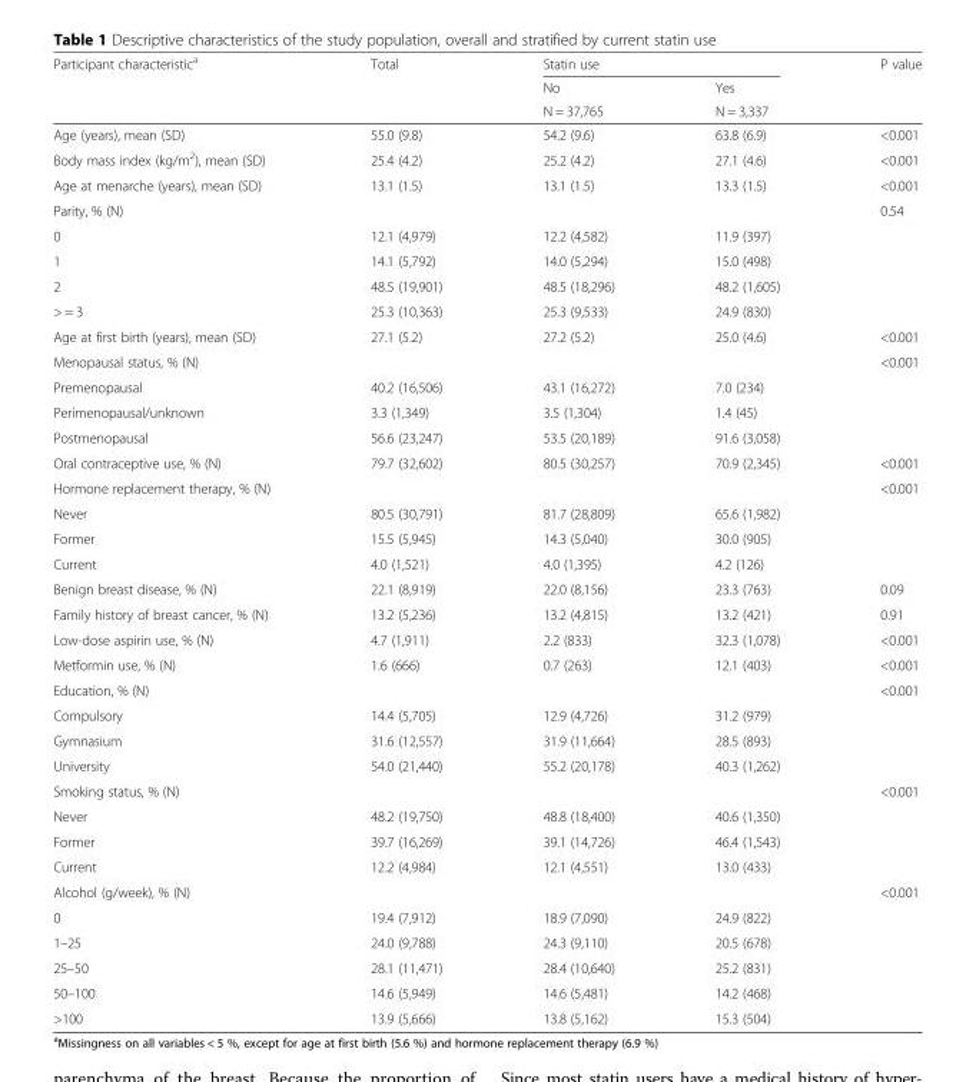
<table><thead><tr><td rowspan="3">Participant characteristic<sup>a</sup></td><td rowspan="3">Total</td><td colspan="2">Statin use</td><td rowspan="3">P value</td></tr><tr><td rowspan="2">No N = 37,765</td><td rowspan="2">Yes N = 3,337</td></tr><tr></tr></thead><tbody><tr><td>Age (years), mean (SD)</td><td>55.0 (9.8)</td><td>54.2 (9.6)</td><td>63.8 (6.9)</td><td>&lt;0.001</td></tr><tr><td>Body mass index (kg/m<sup>2</sup>), mean (SD)</td><td>25.4 (4.2)</td><td>25.2 (4.2)</td><td>27.1 (4.6)</td><td>&lt;0.001</td></tr><tr><td>Age at menarche (years), mean (SD)</td><td>13.1 (1.5)</td><td>13.1 (1.5)</td><td>13.3 (1.5)</td><td>&lt;0.001</td></tr><tr><td colspan="4">Parity, % (N)</td><td rowspan="5">0.54</td></tr><tr><td>0</td><td>12.1 (4,979)</td><td>12.2 (4,582)</td><td>11.9 (397)</td></tr><tr><td>1</td><td>14.1 (5,792)</td><td>14.0 (5,294)</td><td>15.0 (498)</td></tr><tr><td>2</td><td>48.5 (19,901)</td><td>48.5 (18,296)</td><td>48.2 (1,605)</td></tr><tr><td>&gt; = 3</td><td>25.3 (10,363)</td><td>25.3 (9,533)</td><td>24.9 (830)</td></tr><tr><td>Age at first birth (years), mean (SD)</td><td>27.1 (5.2)</td><td>27.2 (5.2)</td><td>25.0 (4.6)</td><td>&lt;0.001</td></tr><tr><td colspan="4">Menopausal status, % (N)</td><td rowspan="4">&lt;0.001</td></tr><tr><td>Premenopausal</td><td>40.2 (16,506)</td><td>43.1 (16,272)</td><td>7.0 (234)</td></tr><tr><td>Perimenopausal/unknown</td><td>3.3 (1,349)</td><td>3.5 (1,304)</td><td>1.4 (45)</td></tr><tr><td>Postmenopausal</td><td>56.6 (23,247)</td><td>53.5 (20,189)</td><td>91.6 (3,058)</td></tr><tr><td>Oral contraceptive use, % (N)</td><td>79.7 (32,602)</td><td>80.5 (30,257)</td><td>70.9 (2,345)</td><td>&lt;0.001</td></tr><tr><td colspan="4">Hormone replacement therapy, % (N)</td><td rowspan="4">&lt;0.001</td></tr><tr><td>Never</td><td>80.5 (30,791)</td><td>81.7 (28,809)</td><td>65.6 (1,982)</td></tr><tr><td>Former</td><td>15.5 (5,945)</td><td>14.3 (5,040)</td><td>30.0 (905)</td></tr><tr><td>Current</td><td>4.0 (1,521)</td><td>4.0 (1,395)</td><td>4.2 (126)</td></tr><tr><td>Benign breast disease, % (N)</td><td>22.1 (8,919)</td><td>22.0 (8,156)</td><td>23.3 (763)</td><td>0.09</td></tr><tr><td>Family history of breast cancer, % (N)</td><td>13.2 (5,236)</td><td>13.2 (4,815)</td><td>13.2 (421)</td><td>0.91</td></tr><tr><td>Low-dose aspirin use, % (N)</td><td>4.7 (1,911)</td><td>2.2 (833)</td><td>32.3 (1,078)</td><td>&lt;0.001</td></tr><tr><td>Metformin use, % (N)</td><td>1.6 (666)</td><td>0.7 (263)</td><td>12.1 (403)</td><td>&lt;0.001</td></tr><tr><td colspan="4">Education, % (N)</td><td rowspan="4">&lt;0.001</td></tr><tr><td>Compulsory</td><td>14.4 (5,705)</td><td>12.9 (4,726)</td><td>31.2 (979)</td></tr><tr><td>Gymnasium</td><td>31.6 (12,557)</td><td>31.9 (11,664)</td><td>28.5 (893)</td></tr><tr><td>University</td><td>54.0 (21,440)</td><td>55.2 (20,178)</td><td>40.3 (1,262)</td></tr><tr><td colspan="4">Smoking status, % (N)</td><td rowspan="4">&lt;0.001</td></tr><tr><td>Never</td><td>48.2 (19,750)</td><td>48.8 (18,400)</td><td>40.6 (1,350)</td></tr><tr><td>Former</td><td>39.7 (16,269)</td><td>39.1 (14,726)</td><td>46.4 (1,543)</td></tr><tr><td>Current</td><td>12.2 (4,984)</td><td>12.1 (4,551)</td><td>13.0 (433)</td></tr><tr><td colspan="4">Alcohol (g/week), % (N)</td><td rowspan="6">&lt;0.001</td></tr><tr><td>0</td><td>19.4 (7,912)</td><td>18.9 (7,090)</td><td>24.9 (822)</td></tr><tr><td>1–25</td><td>24.0 (9,788)</td><td>24.3 (9,110)</td><td>20.5 (678)</td></tr><tr><td>25–50</td><td>28.1 (11,471)</td><td>28.4 (10,640)</td><td>25.2 (831)</td></tr><tr><td>50–100</td><td>14.6 (5,949)</td><td>14.6 (5,481)</td><td>14.2 (468)</td></tr><tr><td>&gt;100</td><td>13.9 (5,666)</td><td>13.8 (5,162)</td><td>15.3 (504)</td></tr></tbody></table>